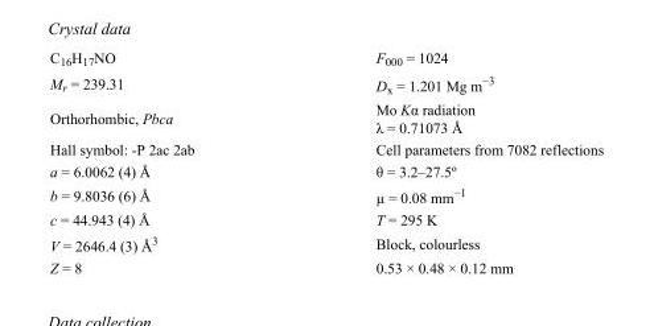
<table><tbody><tr><td>C<sub>16</sub>H<sub>17</sub>NO</td><td>F000 = 1024</td></tr><tr><td>M<sub>r</sub> = 239.31</td><td>D<sub>x</sub> = 1.201 Mg m<sup>−3</sup></td></tr><tr><td>Orthorhombic, Pbca</td><td>Mo Kα radiation λ = 0.71073 Å</td></tr><tr><td>Hall symbol: -P 2ac 2ab</td><td>Cell parameters from 7082 reflections</td></tr><tr><td>a = 6.0062 (4) Å</td><td>θ = 3.2–27.5º</td></tr><tr><td>b = 9.8036 (6) Å</td><td>µ = 0.08 mm<sup>−1</sup></td></tr><tr><td>c = 44.943 (4) Å</td><td>T = 295 K</td></tr><tr><td>V = 2646.4 (3) Å<sup>3</sup></td><td>Block, colourless</td></tr><tr><td>Z = 8</td><td>0.53 × 0.48 × 0.12 mm</td></tr></tbody></table>